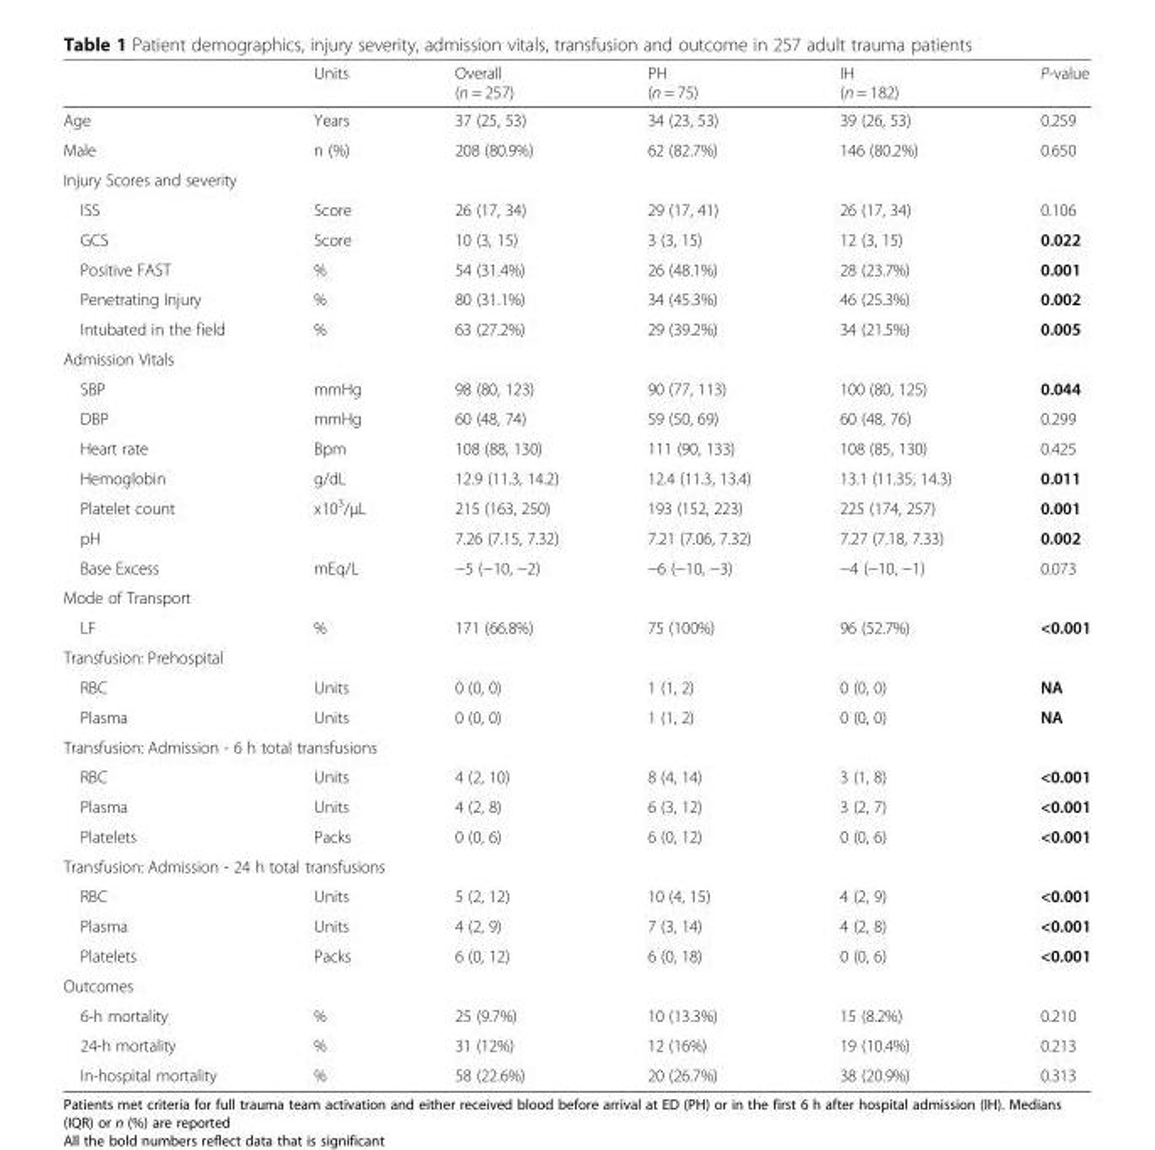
<table><thead><tr><td></td><td>Units</td><td>Overall (n = 257)</td><td>PH (n = 75)</td><td>IH (n = 182)</td><td>P-value</td></tr></thead><tbody><tr><td>Age</td><td>Years</td><td>37 (25, 53)</td><td>34 (23, 53)</td><td>39 (26, 53)</td><td>0.259</td></tr><tr><td>Male</td><td>n (%)</td><td>208 (80.9%)</td><td>62 (82.7%)</td><td>146 (80.2%)</td><td>0.650</td></tr><tr><td colspan="6">Injury Scores and severity</td></tr><tr><td>ISS</td><td>Score</td><td>26 (17, 34)</td><td>29 (17, 41)</td><td>26 (17, 34)</td><td>0.106</td></tr><tr><td>GCS</td><td>Score</td><td>10 (3, 15)</td><td>3 (3, 15)</td><td>12 (3, 15)</td><td>0.022</td></tr><tr><td>Positive FAST</td><td>%</td><td>54 (31.4%)</td><td>26 (48.1%)</td><td>28 (23.7%)</td><td>0.001</td></tr><tr><td>Penetrating Injury</td><td>%</td><td>80 (31.1%)</td><td>34 (45.3%)</td><td>46 (25.3%)</td><td>0.002</td></tr><tr><td>Intubated in the field</td><td>%</td><td>63 (27.2%)</td><td>29 (39.2%)</td><td>34 (21.5%)</td><td>0.005</td></tr><tr><td colspan="6">Admission Vitals</td></tr><tr><td>SBP</td><td>mmHg</td><td>98 (80, 123)</td><td>90 (77, 113)</td><td>100 (80, 125)</td><td>0.044</td></tr><tr><td>DBP</td><td>mmHg</td><td>60 (48, 74)</td><td>59 (50, 69)</td><td>60 (48, 76)</td><td>0.299</td></tr><tr><td>Heart rate</td><td>Bpm</td><td>108 (88, 130)</td><td>111 (90, 133)</td><td>108 (85, 130)</td><td>0.425</td></tr><tr><td>Hemoglobin</td><td>g/dL</td><td>12.9 (11.3, 14.2)</td><td>12.4 (11.3, 13.4)</td><td>13.1 (11.35, 14.3)</td><td>0.011</td></tr><tr><td>Platelet count</td><td>x10<sup>3</sup>/μL</td><td>215 (163, 250)</td><td>193 (152, 223)</td><td>225 (174, 257)</td><td>0.001</td></tr><tr><td>pH</td><td></td><td>7.26 (7.15, 7.32)</td><td>7.21 (7.06, 7.32)</td><td>7.27 (7.18, 7.33)</td><td>0.002</td></tr><tr><td>Base Excess</td><td>mEq/L</td><td>−5 (−10, −2)</td><td>−6 (−10, −3)</td><td>−4 (−10, −1)</td><td>0.073</td></tr><tr><td colspan="6">Mode of Transport</td></tr><tr><td>LF</td><td>%</td><td>171 (66.8%)</td><td>75 (100%)</td><td>96 (52.7%)</td><td>&lt;0.001</td></tr><tr><td colspan="6">Transfusion: Prehospital</td></tr><tr><td>RBC</td><td>Units</td><td>0 (0, 0)</td><td>1 (1, 2)</td><td>0 (0, 0)</td><td>NA</td></tr><tr><td>Plasma</td><td>Units</td><td>0 (0, 0)</td><td>1 (1, 2)</td><td>0 (0, 0)</td><td>NA</td></tr><tr><td colspan="6">Transfusion: Admission - 6 h total transfusions</td></tr><tr><td>RBC</td><td>Units</td><td>4 (2, 10)</td><td>8 (4, 14)</td><td>3 (1, 8)</td><td>&lt;0.001</td></tr><tr><td>Plasma</td><td>Units</td><td>4 (2, 8)</td><td>6 (3, 12)</td><td>3 (2, 7)</td><td>&lt;0.001</td></tr><tr><td>Platelets</td><td>Packs</td><td>0 (0, 6)</td><td>6 (0, 12)</td><td>0 (0, 6)</td><td>&lt;0.001</td></tr><tr><td colspan="6">Transfusion: Admission - 24 h total transfusions</td></tr><tr><td>RBC</td><td>Units</td><td>5 (2, 12)</td><td>10 (4, 15)</td><td>4 (2, 9)</td><td>&lt;0.001</td></tr><tr><td>Plasma</td><td>Units</td><td>4 (2, 9)</td><td>7 (3, 14)</td><td>4 (2, 8)</td><td>&lt;0.001</td></tr><tr><td>Platelets</td><td>Packs</td><td>6 (0, 12)</td><td>6 (0, 18)</td><td>0 (0, 6)</td><td>&lt;0.001</td></tr><tr><td colspan="6">Outcomes</td></tr><tr><td>6-h mortality</td><td>%</td><td>25 (9.7%)</td><td>10 (13.3%)</td><td>15 (8.2%)</td><td>0.210</td></tr><tr><td>24-h mortality</td><td>%</td><td>31 (12%)</td><td>12 (16%)</td><td>19 (10.4%)</td><td>0.213</td></tr><tr><td>In-hospital mortality</td><td>%</td><td>58 (22.6%)</td><td>20 (26.7%)</td><td>38 (20.9%)</td><td>0.313</td></tr></tbody></table>